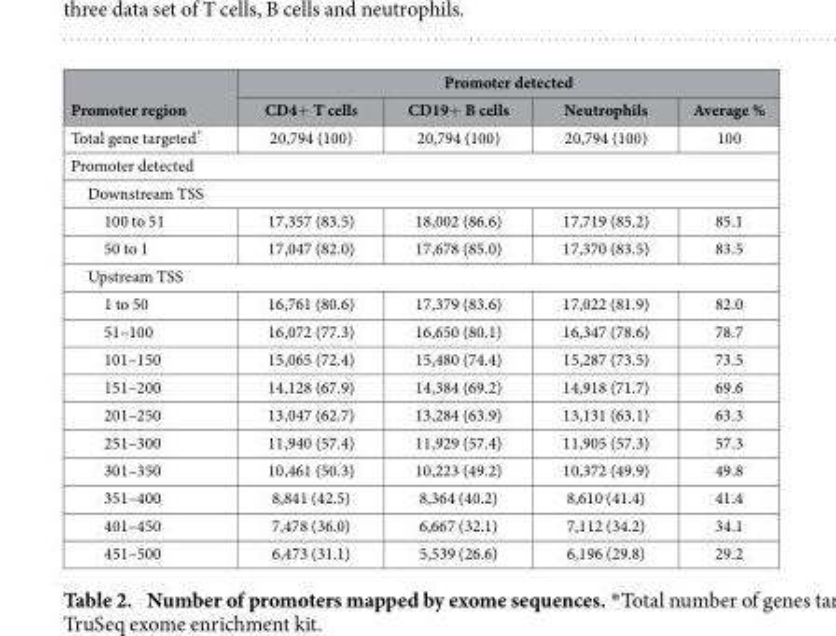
<table><thead><tr><td rowspan="2">Promoter region</td><td colspan="4">Promoter detected</td></tr><tr><td>CD4+ T cells</td><td>CD19+ B cells</td><td>Neutrophils</td><td>Average %</td></tr></thead><tbody><tr><td>Total gene targeted*</td><td>20,794 (100)</td><td>20,794 (100)</td><td>20,794 (100)</td><td>100</td></tr><tr><td colspan="5">Promoter detected</td></tr><tr><td colspan="5">Downstream TSS</td></tr><tr><td>100 to 51</td><td>17,357 (83.5)</td><td>18,002 (86.6)</td><td>17,719 (85.2)</td><td>85.1</td></tr><tr><td>50 to 1</td><td>17,047 (82.0)</td><td>17,678 (85.0)</td><td>17,370 (83.5)</td><td>83.5</td></tr><tr><td colspan="5">Upstream TSS</td></tr><tr><td>1 to 50</td><td>16,761 (80.6)</td><td>17,379 (83.6)</td><td>17,022 (81.9)</td><td>82.0</td></tr><tr><td>51–100</td><td>16,072 (77.3)</td><td>16,650 (80.1)</td><td>16,347 (78.6)</td><td>78.7</td></tr><tr><td>101–150</td><td>15,065 (72.4)</td><td>15,480 (74.4)</td><td>15,287 (73.5)</td><td>73.5</td></tr><tr><td>151–200</td><td>14,128 (67.9)</td><td>14,384 (69.2)</td><td>14,918 (71.7)</td><td>69.6</td></tr><tr><td>201–250</td><td>13,047 (62.7)</td><td>13,284 (63.9)</td><td>13,131 (63.1)</td><td>63.3</td></tr><tr><td>251–300</td><td>11,940 (57.4)</td><td>11,929 (57.4)</td><td>11,905 (57.3)</td><td>57.3</td></tr><tr><td>301–350</td><td>10,461 (50.3)</td><td>10,223 (49.2)</td><td>10,372 (49.9)</td><td>49.8</td></tr><tr><td>351–400</td><td>8,841 (42.5)</td><td>8,364 (40.2)</td><td>8,610 (41.4)</td><td>41.4</td></tr><tr><td>401–450</td><td>7,478 (36.0)</td><td>6,667 (32.1)</td><td>7,112 (34.2)</td><td>34.1</td></tr><tr><td>451–500</td><td>6,473 (31.1)</td><td>5,539 (26.6)</td><td>6,196 (29.8)</td><td>29.2</td></tr></tbody></table>